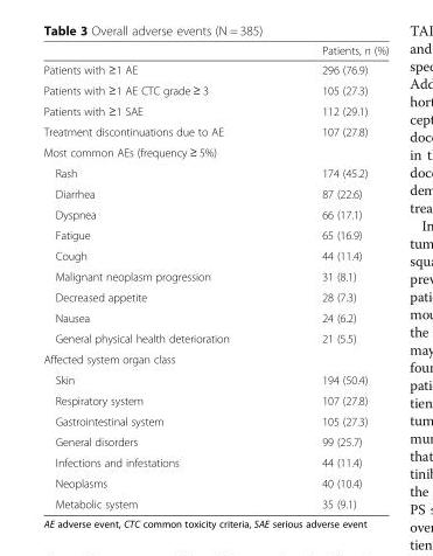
<table><thead><tr><td></td><td>Patients, n (%)</td></tr></thead><tbody><tr><td>Patients with ≥1 AE</td><td>296 (76.9)</td></tr><tr><td>Patients with ≥1 AE CTC grade ≥ 3</td><td>105 (27.3)</td></tr><tr><td>Patients with ≥1 SAE</td><td>112 (29.1)</td></tr><tr><td>Treatment discontinuations due to AE</td><td>107 (27.8)</td></tr><tr><td colspan="2">Most common AEs (frequency ≥ 5%)</td></tr><tr><td>Rash</td><td>174 (45.2)</td></tr><tr><td>Diarrhea</td><td>87 (22.6)</td></tr><tr><td>Dyspnea</td><td>66 (17.1)</td></tr><tr><td>Fatigue</td><td>65 (16.9)</td></tr><tr><td>Cough</td><td>44 (11.4)</td></tr><tr><td>Malignant neoplasm progression</td><td>31 (8.1)</td></tr><tr><td>Decreased appetite</td><td>28 (7.3)</td></tr><tr><td>Nausea</td><td>24 (6.2)</td></tr><tr><td>General physical health deterioration</td><td>21 (5.5)</td></tr><tr><td colspan="2">Affected system organ class</td></tr><tr><td>Skin</td><td>194 (50.4)</td></tr><tr><td>Respiratory system</td><td>107 (27.8)</td></tr><tr><td>Gastrointestinal system</td><td>105 (27.3)</td></tr><tr><td>General disorders</td><td>99 (25.7)</td></tr><tr><td>Infections and infestations</td><td>44 (11.4)</td></tr><tr><td>Neoplasms</td><td>40 (10.4)</td></tr><tr><td>Metabolic system</td><td>35 (9.1)</td></tr></tbody></table>